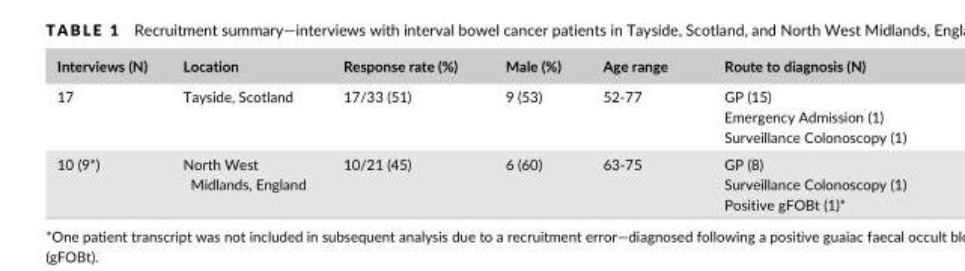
<table><thead><tr><td>Interviews (N)</td><td>Location</td><td>Response rate (%)</td><td>Male (%)</td><td>Age range</td><td>Route to diagnosis (N)</td></tr></thead><tbody><tr><td>17</td><td>Tayside, Scotland</td><td>17/33 (51)</td><td>9 (53)</td><td>52- 77</td><td>GP (15) Emergency Admission (1) Surveillance Colonoscopy (1)</td></tr><tr><td>10 (9*)</td><td>North West Midlands, England</td><td>10/21 (45)</td><td>6 (60)</td><td>63- 75</td><td>GP (8) Surveillance Colonoscopy (1) Positive gFOBt (1)*</td></tr></tbody></table>